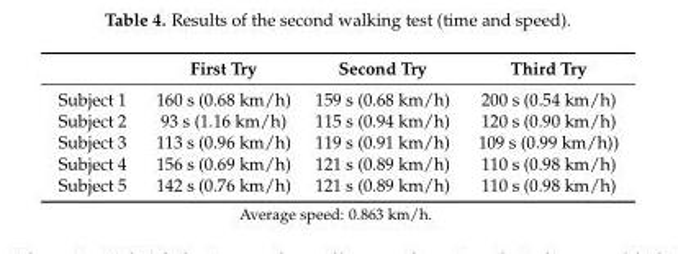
<table><thead><tr><td></td><td>First Try</td><td>Second Try</td><td>Third Try</td></tr></thead><tbody><tr><td>Subject 1</td><td>160 s (0.68 km/h)</td><td>159 s (0.68 km/h)</td><td>200 s (0.54 km/h)</td></tr><tr><td>Subject 2</td><td>93 s (1.16 km/h)</td><td>115 s (0.94 km/h)</td><td>120 s (0.90 km/h)</td></tr><tr><td>Subject 3</td><td>113 s (0.96 km/h)</td><td>119 s (0.91 km/h)</td><td>109 s (0.99 km/h))</td></tr><tr><td>Subject 4</td><td>156 s (0.69 km/h)</td><td>121 s (0.89 km/h)</td><td>110 s (0.98 km/h)</td></tr><tr><td>Subject 5</td><td>142 s (0.76 km/h)</td><td>121 s (0.89 km/h)</td><td>110 s (0.98 km/h)</td></tr></tbody></table>